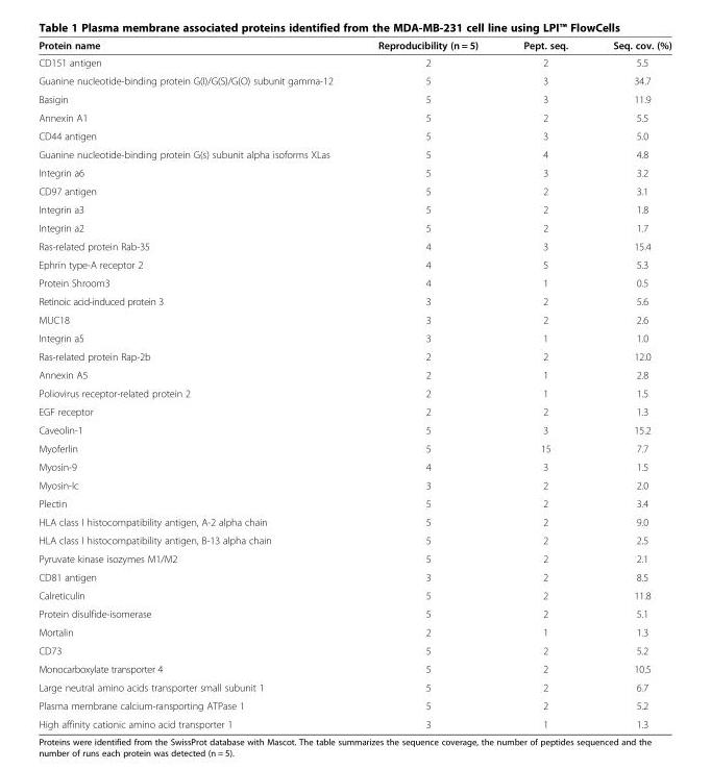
<table><thead><tr><td>Protein name</td><td>Reproducibility (n = 5)</td><td>Pept. seq.</td><td>Seq. cov. (%)</td></tr></thead><tbody><tr><td>CD151 antigen</td><td>2</td><td>2</td><td>5.5</td></tr><tr><td>Guanine nucleotide-binding protein G(I)/G(S)/G(O) subunit gamma-12</td><td>5</td><td>3</td><td>34.7</td></tr><tr><td>Basigin</td><td>5</td><td>3</td><td>11.9</td></tr><tr><td>Annexin A1</td><td>5</td><td>2</td><td>5.5</td></tr><tr><td>CD44 antigen</td><td>5</td><td>3</td><td>5.0</td></tr><tr><td>Guanine nucleotide-binding protein G(s) subunit alpha isoforms XLas</td><td>5</td><td>4</td><td>4.8</td></tr><tr><td>Integrin a6</td><td>5</td><td>3</td><td>3.2</td></tr><tr><td>CD97 antigen</td><td>5</td><td>2</td><td>3.1</td></tr><tr><td>Integrin a3</td><td>5</td><td>2</td><td>1.8</td></tr><tr><td>Integrin a2</td><td>5</td><td>2</td><td>1.7</td></tr><tr><td>Ras-related protein Rab-35</td><td>4</td><td>3</td><td>15.4</td></tr><tr><td>Ephrin type-A receptor 2</td><td>4</td><td>5</td><td>5.3</td></tr><tr><td>Protein Shroom3</td><td>4</td><td>1</td><td>0.5</td></tr><tr><td>Retinoic acid-induced protein 3</td><td>3</td><td>2</td><td>5.6</td></tr><tr><td>MUC18</td><td>3</td><td>2</td><td>2.6</td></tr><tr><td>Integrin a5</td><td>3</td><td>1</td><td>1.0</td></tr><tr><td>Ras-related protein Rap-2b</td><td>2</td><td>2</td><td>12.0</td></tr><tr><td>Annexin A5</td><td>2</td><td>1</td><td>2.8</td></tr><tr><td>Poliovirus receptor-related protein 2</td><td>2</td><td>1</td><td>1.5</td></tr><tr><td>EGF receptor</td><td>2</td><td>2</td><td>1.3</td></tr><tr><td>Caveolin-1</td><td>5</td><td>3</td><td>15.2</td></tr><tr><td>Myoferlin</td><td>5</td><td>15</td><td>7.7</td></tr><tr><td>Myosin-9</td><td>4</td><td>3</td><td>1.5</td></tr><tr><td>Myosin-Ic</td><td>3</td><td>2</td><td>2.0</td></tr><tr><td>Plectin</td><td>5</td><td>2</td><td>3.4</td></tr><tr><td>HLA class I histocompatibility antigen, A-2 alpha chain</td><td>5</td><td>2</td><td>9.0</td></tr><tr><td>HLA class I histocompatibility antigen, B-13 alpha chain</td><td>5</td><td>2</td><td>2.5</td></tr><tr><td>Pyruvate kinase isozymes M1/M2</td><td>5</td><td>2</td><td>2.1</td></tr><tr><td>CD81 antigen</td><td>3</td><td>2</td><td>8.5</td></tr><tr><td>Calreticulin</td><td>5</td><td>2</td><td>11.8</td></tr><tr><td>Protein disulfide-isomerase</td><td>5</td><td>2</td><td>5.1</td></tr><tr><td>Mortalin</td><td>2</td><td>1</td><td>1.3</td></tr><tr><td>CD73</td><td>5</td><td>2</td><td>5.2</td></tr><tr><td>Monocarboxylate transporter 4</td><td>5</td><td>2</td><td>10.5</td></tr><tr><td>Large neutral amino acids transporter small subunit 1</td><td>5</td><td>2</td><td>6.7</td></tr><tr><td>Plasma membrane calcium-ransporting ATPase 1</td><td>5</td><td>2</td><td>5.2</td></tr><tr><td>High affinity cationic amino acid transporter 1</td><td>3</td><td>1</td><td>1.3</td></tr></tbody></table>